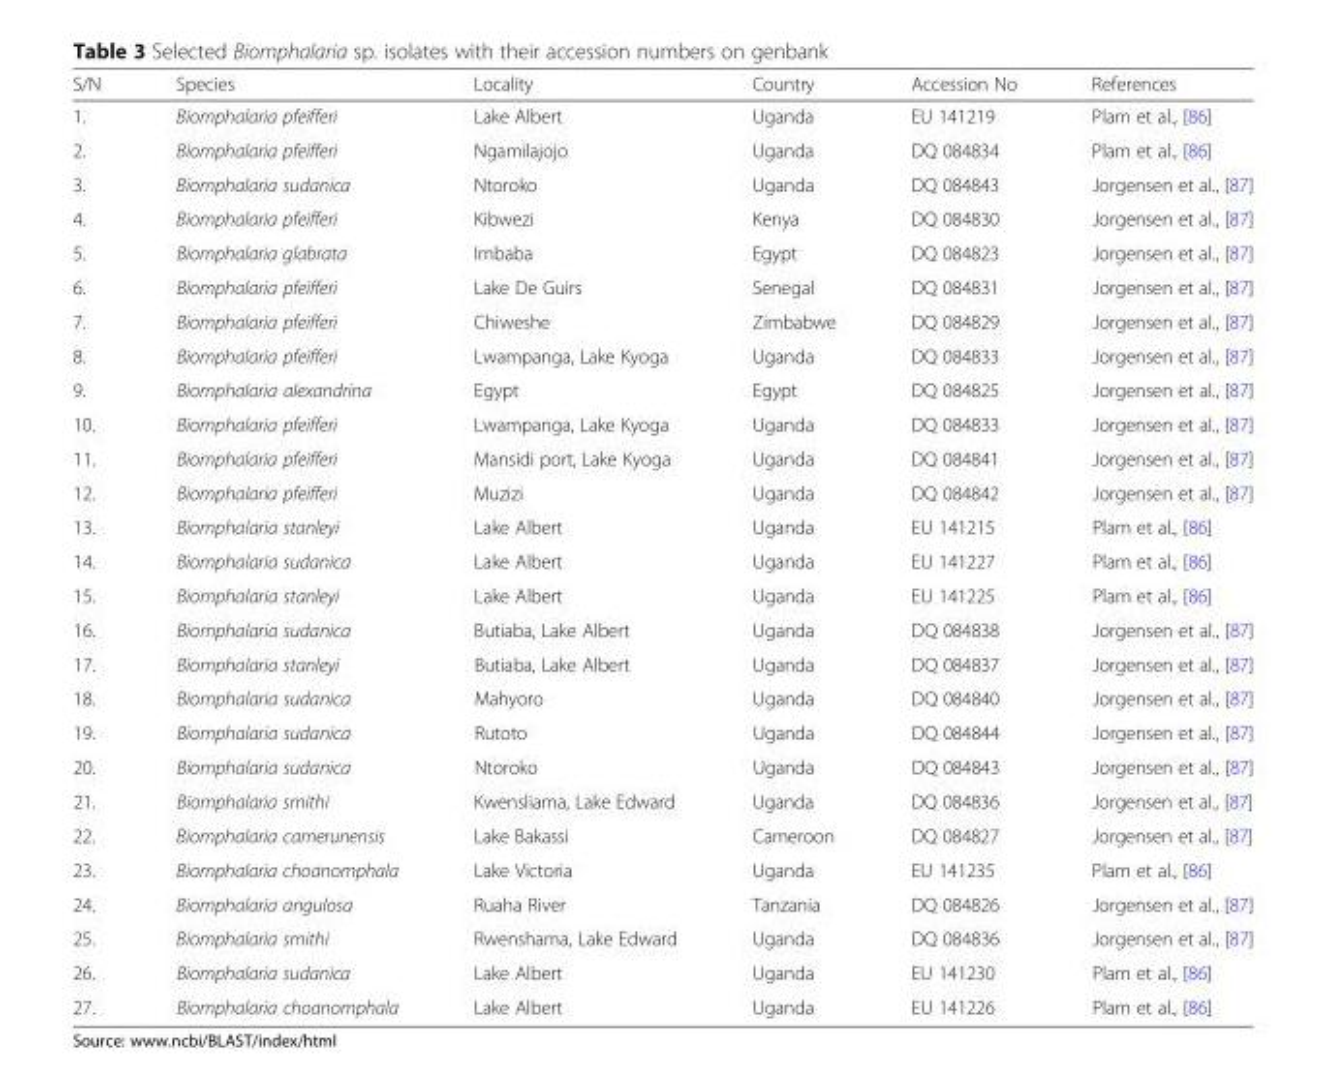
<table><thead><tr><td>S/N</td><td>Species</td><td>Locality</td><td>Country</td><td>Accession No</td><td>References</td></tr></thead><tbody><tr><td>1.</td><td>Biomphalaria pfeifferi</td><td>Lake Albert</td><td>Uganda</td><td>EU 141219</td><td>Plam et al., [86]</td></tr><tr><td>2.</td><td>Biomphalaria pfeifferi</td><td>Ngamilajojo</td><td>Uganda</td><td>DQ 084834</td><td>Plam et al., [86]</td></tr><tr><td>3.</td><td>Biomphalaria sudanica</td><td>Ntoroko</td><td>Uganda</td><td>DQ 084843</td><td>Jorgensen et al., [87]</td></tr><tr><td>4.</td><td>Biomphalaria pfeifferi</td><td>Kibwezi</td><td>Kenya</td><td>DQ 084830</td><td>Jorgensen et al., [87]</td></tr><tr><td>5.</td><td>Biomphalaria glabrata</td><td>Imbaba</td><td>Egypt</td><td>DQ 084823</td><td>Jorgensen et al., [87]</td></tr><tr><td>6.</td><td>Biomphalaria pfeifferi</td><td>Lake De Guirs</td><td>Senegal</td><td>DQ 084831</td><td>Jorgensen et al., [87]</td></tr><tr><td>7.</td><td>Biomphalaria pfeifferi</td><td>Chiweshe</td><td>Zimbabwe</td><td>DQ 084829</td><td>Jorgensen et al., [87]</td></tr><tr><td>8.</td><td>Biomphalaria pfeifferi</td><td>Lwampanga, Lake Kyoga</td><td>Uganda</td><td>DQ 084833</td><td>Jorgensen et al., [87]</td></tr><tr><td>9.</td><td>Biomphalaria alexandrina</td><td>Egypt</td><td>Egypt</td><td>DQ 084825</td><td>Jorgensen et al., [87]</td></tr><tr><td>10.</td><td>Biomphalaria pfeifferi</td><td>Lwampanga, Lake Kyoga</td><td>Uganda</td><td>DQ 084833</td><td>Jorgensen et al., [87]</td></tr><tr><td>11.</td><td>Biomphalaria pfeifferi</td><td>Mansidi port, Lake Kyoga</td><td>Uganda</td><td>DQ 084841</td><td>Jorgensen et al., [87]</td></tr><tr><td>12.</td><td>Biomphalaria pfeifferi</td><td>Muzizi</td><td>Uganda</td><td>DQ 084842</td><td>Jorgensen et al., [87]</td></tr><tr><td>13.</td><td>Biomphalaria stanleyi</td><td>Lake Albert</td><td>Uganda</td><td>EU 141215</td><td>Plam et al., [86]</td></tr><tr><td>14.</td><td>Biomphalaria sudanica</td><td>Lake Albert</td><td>Uganda</td><td>EU 141227</td><td>Plam et al., [86]</td></tr><tr><td>15.</td><td>Biomphalaria stanleyi</td><td>Lake Albert</td><td>Uganda</td><td>EU 141225</td><td>Plam et al., [86]</td></tr><tr><td>16.</td><td>Biomphalaria sudanica</td><td>Butiaba, Lake Albert</td><td>Uganda</td><td>DQ 084838</td><td>Jorgensen et al., [87]</td></tr><tr><td>17.</td><td>Biomphalaria stanleyi</td><td>Butiaba, Lake Albert</td><td>Uganda</td><td>DQ 084837</td><td>Jorgensen et al., [87]</td></tr><tr><td>18.</td><td>Biomphalaria sudanica</td><td>Mahyoro</td><td>Uganda</td><td>DQ 084840</td><td>Jorgensen et al., [87]</td></tr><tr><td>19.</td><td>Biomphalaria sudanica</td><td>Rutoto</td><td>Uganda</td><td>DQ 084844</td><td>Jorgensen et al., [87]</td></tr><tr><td>20.</td><td>Biomphalaria sudanica</td><td>Ntoroko</td><td>Uganda</td><td>DQ 084843</td><td>Jorgensen et al., [87]</td></tr><tr><td>21.</td><td>Biomphalaria smithi</td><td>Kwensliama, Lake Edward</td><td>Uganda</td><td>DQ 084836</td><td>Jorgensen et al., [87]</td></tr><tr><td>22.</td><td>Biomphalaria camerunensis</td><td>Lake Bakassi</td><td>Cameroon</td><td>DQ 084827</td><td>Jorgensen et al., [87]</td></tr><tr><td>23.</td><td>Biomphalaria choanomphala</td><td>Lake Victoria</td><td>Uganda</td><td>EU 141235</td><td>Plam et al., [86]</td></tr><tr><td>24.</td><td>Biomphalaria angulosa</td><td>Ruaha River</td><td>Tanzania</td><td>DQ 084826</td><td>Jorgensen et al., [87]</td></tr><tr><td>25.</td><td>Biomphalaria smithi</td><td>Rwenshama, Lake Edward</td><td>Uganda</td><td>DQ 084836</td><td>Jorgensen et al., [87]</td></tr><tr><td>26.</td><td>Biomphalaria sudanica</td><td>Lake Albert</td><td>Uganda</td><td>EU 141230</td><td>Plam et al., [86]</td></tr><tr><td>27.</td><td>Biomphalaria choanomphala</td><td>Lake Albert</td><td>Uganda</td><td>EU 141226</td><td>Plam et al., [86]</td></tr></tbody></table>